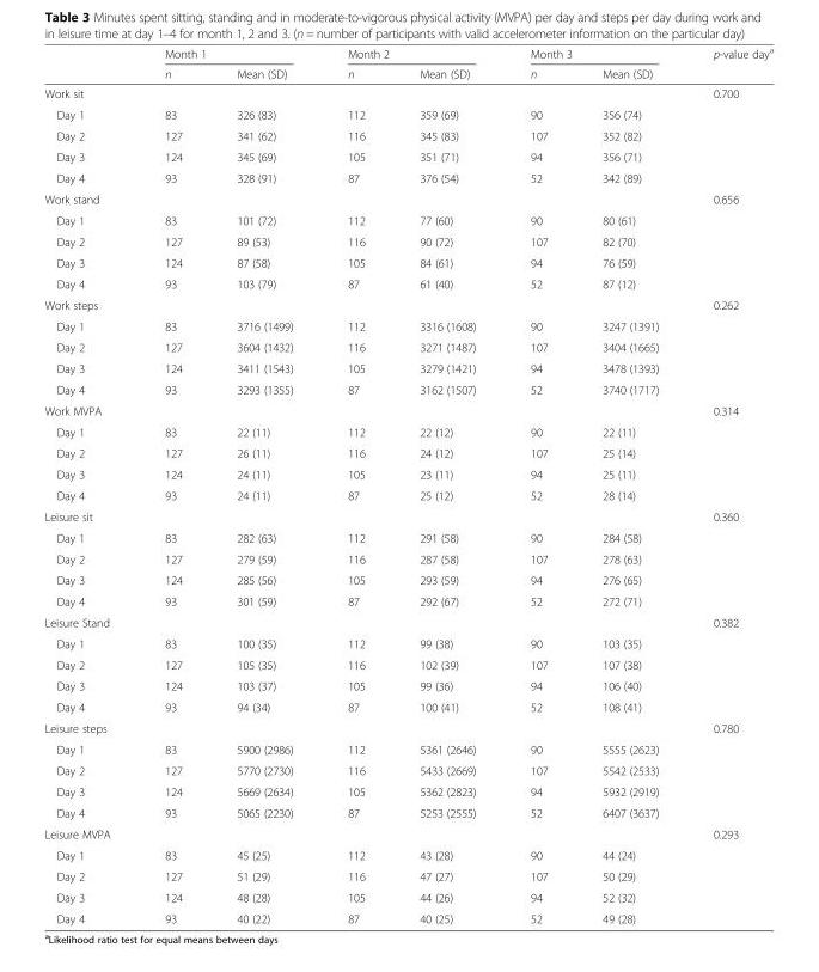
<table><thead><tr><td rowspan="2"></td><td colspan="2">Month 1</td><td colspan="2">Month 2</td><td colspan="2">Month 3</td><td rowspan="2">p-value day<sup>a</sup></td></tr><tr><td>n</td><td>Mean (SD)</td><td>n</td><td>Mean (SD)</td><td>n</td><td>Mean (SD)</td></tr></thead><tbody><tr><td>Work sit</td><td></td><td></td><td></td><td></td><td></td><td></td><td>0.700</td></tr><tr><td>Day 1</td><td>83</td><td>326 (83)</td><td>112</td><td>359 (69)</td><td>90</td><td>356 (74)</td><td></td></tr><tr><td>Day 2</td><td>127</td><td>341 (62)</td><td>116</td><td>345 (83)</td><td>107</td><td>352 (82)</td><td></td></tr><tr><td>Day 3</td><td>124</td><td>345 (69)</td><td>105</td><td>351 (71)</td><td>94</td><td>356 (71)</td><td></td></tr><tr><td>Day 4</td><td>93</td><td>328 (91)</td><td>87</td><td>376 (54)</td><td>52</td><td>342 (89)</td><td></td></tr><tr><td>Work stand</td><td></td><td></td><td></td><td></td><td></td><td></td><td>0.656</td></tr><tr><td>Day 1</td><td>83</td><td>101 (72)</td><td>112</td><td>77 (60)</td><td>90</td><td>80 (61)</td><td></td></tr><tr><td>Day 2</td><td>127</td><td>89 (53)</td><td>116</td><td>90 (72)</td><td>107</td><td>82 (70)</td><td></td></tr><tr><td>Day 3</td><td>124</td><td>87 (58)</td><td>105</td><td>84 (61)</td><td>94</td><td>76 (59)</td><td></td></tr><tr><td>Day 4</td><td>93</td><td>103 (79)</td><td>87</td><td>61 (40)</td><td>52</td><td>87 (12)</td><td></td></tr><tr><td>Work steps</td><td></td><td></td><td></td><td></td><td></td><td></td><td>0.262</td></tr><tr><td>Day 1</td><td>83</td><td>3716 (1499)</td><td>112</td><td>3316 (1608)</td><td>90</td><td>3247 (1391)</td><td></td></tr><tr><td>Day 2</td><td>127</td><td>3604 (1432)</td><td>116</td><td>3271 (1487)</td><td>107</td><td>3404 (1665)</td><td></td></tr><tr><td>Day 3</td><td>124</td><td>3411 (1543)</td><td>105</td><td>3279 (1421)</td><td>94</td><td>3478 (1393)</td><td></td></tr><tr><td>Day 4</td><td>93</td><td>3293 (1355)</td><td>87</td><td>3162 (1507)</td><td>52</td><td>3740 (1717)</td><td></td></tr><tr><td>Work MVPA</td><td></td><td></td><td></td><td></td><td></td><td></td><td>0.314</td></tr><tr><td>Day 1</td><td>83</td><td>22 (11)</td><td>112</td><td>22 (12)</td><td>90</td><td>22 (11)</td><td></td></tr><tr><td>Day 2</td><td>127</td><td>26 (11)</td><td>116</td><td>24 (12)</td><td>107</td><td>25 (14)</td><td></td></tr><tr><td>Day 3</td><td>124</td><td>24 (11)</td><td>105</td><td>23 (11)</td><td>94</td><td>25 (11)</td><td></td></tr><tr><td>Day 4</td><td>93</td><td>24 (11)</td><td>87</td><td>25 (12)</td><td>52</td><td>28 (14)</td><td></td></tr><tr><td>Leisure sit</td><td></td><td></td><td></td><td></td><td></td><td></td><td>0.360</td></tr><tr><td>Day 1</td><td>83</td><td>282 (63)</td><td>112</td><td>291 (58)</td><td>90</td><td>284 (58)</td><td></td></tr><tr><td>Day 2</td><td>127</td><td>279 (59)</td><td>116</td><td>287 (58)</td><td>107</td><td>278 (63)</td><td></td></tr><tr><td>Day 3</td><td>124</td><td>285 (56)</td><td>105</td><td>293 (59)</td><td>94</td><td>276 (65)</td><td></td></tr><tr><td>Day 4</td><td>93</td><td>301 (59)</td><td>87</td><td>292 (67)</td><td>52</td><td>272 (71)</td><td></td></tr><tr><td>Leisure Stand</td><td></td><td></td><td></td><td></td><td></td><td></td><td>0.382</td></tr><tr><td>Day 1</td><td>83</td><td>100 (35)</td><td>112</td><td>99 (38)</td><td>90</td><td>103 (35)</td><td></td></tr><tr><td>Day 2</td><td>127</td><td>105 (35)</td><td>116</td><td>102 (39)</td><td>107</td><td>107 (38)</td><td></td></tr><tr><td>Day 3</td><td>124</td><td>103 (37)</td><td>105</td><td>99 (36)</td><td>94</td><td>106 (40)</td><td></td></tr><tr><td>Day 4</td><td>93</td><td>94 (34)</td><td>87</td><td>100 (41)</td><td>52</td><td>108 (41)</td><td></td></tr><tr><td>Leisure steps</td><td></td><td></td><td></td><td></td><td></td><td></td><td>0.780</td></tr><tr><td>Day 1</td><td>83</td><td>5900 (2986)</td><td>112</td><td>5361 (2646)</td><td>90</td><td>5555 (2623)</td><td></td></tr><tr><td>Day 2</td><td>127</td><td>5770 (2730)</td><td>116</td><td>5433 (2669)</td><td>107</td><td>5542 (2533)</td><td></td></tr><tr><td>Day 3</td><td>124</td><td>5669 (2634)</td><td>105</td><td>5362 (2823)</td><td>94</td><td>5932 (2919)</td><td></td></tr><tr><td>Day 4</td><td>93</td><td>5065 (2230)</td><td>87</td><td>5253 (2555)</td><td>52</td><td>6407 (3637)</td><td></td></tr><tr><td>Leisure MVPA</td><td></td><td></td><td></td><td></td><td></td><td></td><td>0.293</td></tr><tr><td>Day 1</td><td>83</td><td>45 (25)</td><td>112</td><td>43 (28)</td><td>90</td><td>44 (24)</td><td></td></tr><tr><td>Day 2</td><td>127</td><td>51 (29)</td><td>116</td><td>47 (27)</td><td>107</td><td>50 (29)</td><td></td></tr><tr><td>Day 3</td><td>124</td><td>48 (28)</td><td>105</td><td>44 (26)</td><td>94</td><td>52 (32)</td><td></td></tr><tr><td>Day 4</td><td>93</td><td>40 (22)</td><td>87</td><td>40 (25)</td><td>52</td><td>49 (28)</td><td></td></tr></tbody></table>